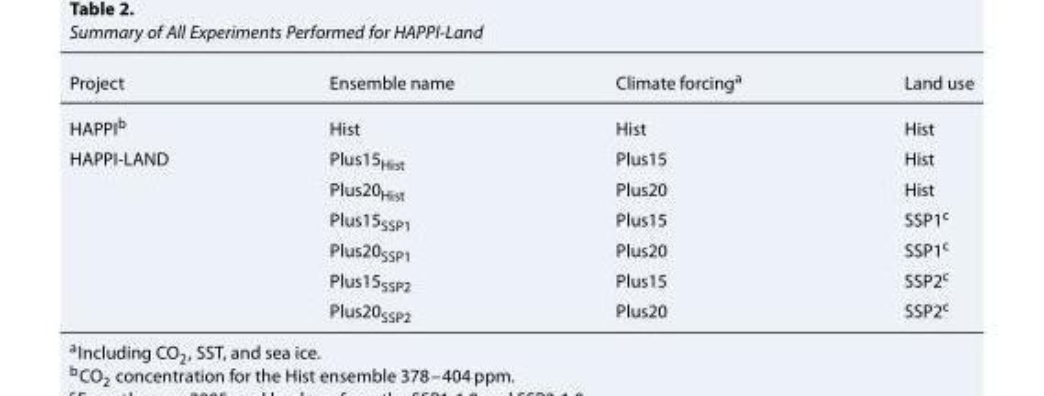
<table><thead><tr><td>Project</td><td>Ensemble name</td><td>Climate forcing<sup>a</sup></td><td>Land use</td></tr></thead><tbody><tr><td>HAPPI<sup>b</sup></td><td>Hist</td><td>Hist</td><td>Hist</td></tr><tr><td rowspan="6">HAPPI-LAND</td><td>Plus15<sub>Hist</sub></td><td>Plus15</td><td>Hist</td></tr><tr><td>Plus20<sub>Hist</sub></td><td>Plus20</td><td>Hist</td></tr><tr><td>Plus15<sub>SSP1</sub></td><td>Plus15</td><td>SSP1<sup>c</sup></td></tr><tr><td>Plus20<sub>SSP1</sub></td><td>Plus20</td><td>SSP1<sup>c</sup></td></tr><tr><td>Plus15<sub>SSP2</sub></td><td>Plus15</td><td>SSP2<sup>c</sup></td></tr><tr><td>Plus20<sub>SSP2</sub></td><td>Plus20</td><td>SSP2<sup>c</sup></td></tr></tbody></table>